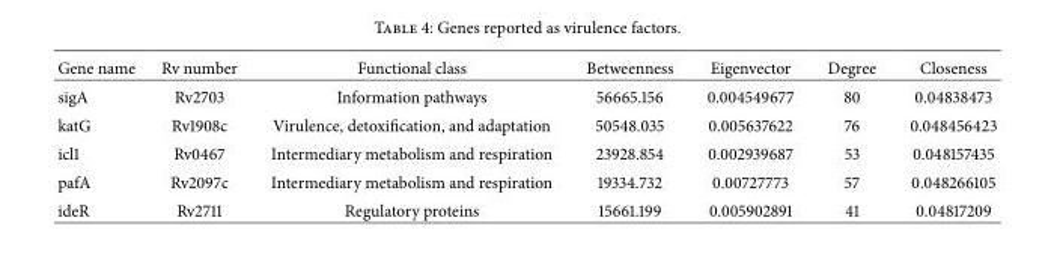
<table><thead><tr><td>Gene name</td><td>Rv number</td><td>Functional class</td><td>Betweenness</td><td>Eigenvector</td><td>Degree</td><td>Closeness</td></tr></thead><tbody><tr><td>sigA</td><td>Rv2703</td><td>Information pathways</td><td>56665.156</td><td>0.004549677</td><td>80</td><td>0.04838473</td></tr><tr><td>katG</td><td>Rv1908c</td><td>Virulence, detoxification, and adaptation</td><td>50548.035</td><td>0.005637622</td><td>76</td><td>0.048456423</td></tr><tr><td>icl1</td><td>Rv0467</td><td>Intermediary metabolism and respiration</td><td>23928.854</td><td>0.002939687</td><td>53</td><td>0.048157435</td></tr><tr><td>pafA</td><td>Rv2097c</td><td>Intermediary metabolism and respiration</td><td>19334.732</td><td>0.00727773</td><td>57</td><td>0.048266105</td></tr><tr><td>ideR</td><td>Rv2711</td><td>Regulatory proteins</td><td>15661.199</td><td>0.005902891</td><td>41</td><td>0.04817209</td></tr></tbody></table>